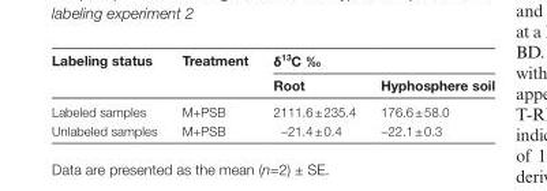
<table><thead><tr><td rowspan="2">Labeling status</td><td rowspan="2">Treatment</td><td colspan="2">δ<sup>13</sup>C ‰</td></tr><tr><td>Root</td><td>Hyphosphere soil</td></tr></thead><tbody><tr><td>Labeled samples</td><td>M+PSB</td><td>2111.6 ± 235.4</td><td>176.6 ± 58.0</td></tr><tr><td>Unlabeled samples</td><td>M+PSB</td><td>–21.4 ± 0.4</td><td>–22.1 ± 0.3</td></tr></tbody></table>